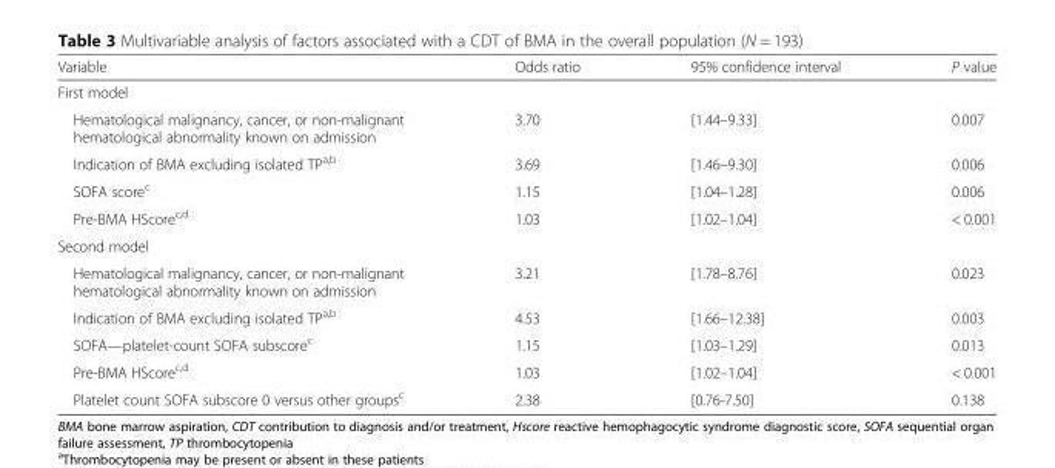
<table><thead><tr><td>Variable</td><td>Odds ratio</td><td>95% confidence interval</td><td>P value</td></tr></thead><tbody><tr><td colspan="4">First model</td></tr><tr><td>Hematological malignancy, cancer, or non-malignant hematological abnormality known on admission</td><td>3.70</td><td>[1.44–9.33]</td><td>0.007</td></tr><tr><td>Indication of BMA excluding isolated TP<sup>a,b</sup></td><td>3.69</td><td>[1.46–9.30]</td><td>0.006</td></tr><tr><td>SOFA score<sup>c</sup></td><td>1.15</td><td>[1.04–1.28]</td><td>0.006</td></tr><tr><td>Pre-BMA HScore<sup>c,d</sup></td><td>1.03</td><td>[1.02–1.04]</td><td>&lt; 0.001</td></tr><tr><td colspan="4">Second model</td></tr><tr><td>Hematological malignancy, cancer, or non-malignant hematological abnormality known on admission</td><td>3.21</td><td>[1.78–8.76]</td><td>0.023</td></tr><tr><td>Indication of BMA excluding isolated TP<sup>a,b</sup></td><td>4.53</td><td>[1.66–12.38]</td><td>0.003</td></tr><tr><td>SOFA—platelet-count SOFA subscore<sup>c</sup></td><td>1.15</td><td>[1.03–1.29]</td><td>0.013</td></tr><tr><td>Pre-BMA HScore<sup>c,d</sup></td><td>1.03</td><td>[1.02–1.04]</td><td>&lt; 0.001</td></tr><tr><td>Platelet count SOFA subscore 0 versus other groups<sup>c</sup></td><td>2.38</td><td>[0.76-7.50]</td><td>0.138</td></tr></tbody></table>